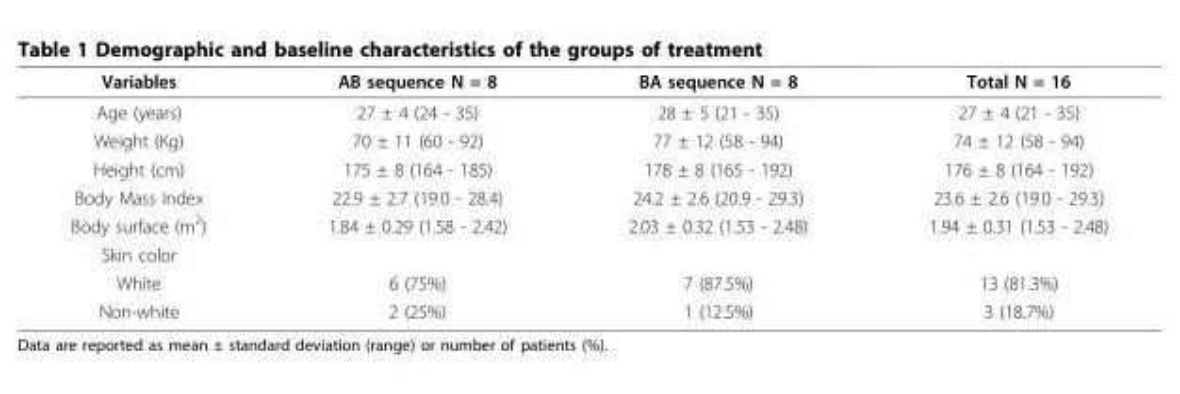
<table><thead><tr><td>Variables</td><td>AB sequence N = 8</td><td>BA sequence N = 8</td><td>Total N = 16</td></tr></thead><tbody><tr><td>Age (years)</td><td>27 ± 4 (24 - 35)</td><td>28 ± 5 (21 - 35)</td><td>27 ± 4 (21 - 35)</td></tr><tr><td>Weight (Kg)</td><td>70 ± 11 (60 - 92)</td><td>77 ± 12 (58 - 94)</td><td>74 ± 12 (58 - 94)</td></tr><tr><td>Height (cm)</td><td>175 ± 8 (164 - 185)</td><td>178 ± 8 (165 - 192)</td><td>176 ± 8 (164 - 192)</td></tr><tr><td>Body Mass Index</td><td>22.9 ± 2.7 (19.0 - 28.4)</td><td>24.2 ± 2.6 (20.9 - 29.3)</td><td>23.6 ± 2.6 (19.0 - 29.3)</td></tr><tr><td>Body surface (m<sup>2</sup>)</td><td>1.84 ± 0.29 (1.58 - 2.42)</td><td>2.03 ± 0.32 (1.53 - 2.48)</td><td>1.94 ± 0.31 (1.53 - 2.48)</td></tr><tr><td colspan="4">Skin color</td></tr><tr><td>White</td><td>6 (75%)</td><td>7 (87.5%)</td><td>13 (81.3%)</td></tr><tr><td>Non-white</td><td>2 (25%)</td><td>1 (12.5%)</td><td>3 (18.7%)</td></tr></tbody></table>